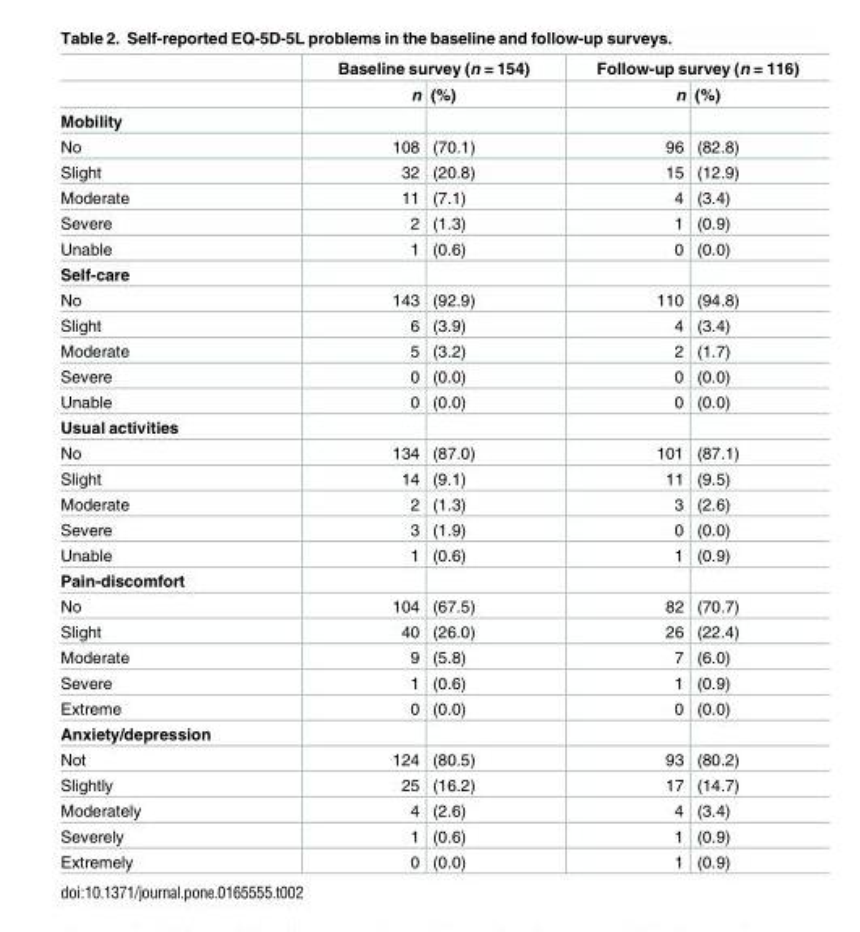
<table><thead><tr><td rowspan="2"></td><td colspan="2">Baseline survey (n = 154)</td><td colspan="2">Follow-up survey (n = 116)</td></tr><tr><td>n</td><td>(%)</td><td>n</td><td>(%)</td></tr></thead><tbody><tr><td colspan="5">Mobility</td></tr><tr><td>No</td><td>108</td><td>(70.1)</td><td>96</td><td>(82.8)</td></tr><tr><td>Slight</td><td>32</td><td>(20.8)</td><td>15</td><td>(12.9)</td></tr><tr><td>Moderate</td><td>11</td><td>(7.1)</td><td>4</td><td>(3.4)</td></tr><tr><td>Severe</td><td>2</td><td>(1.3)</td><td>1</td><td>(0.9)</td></tr><tr><td>Unable</td><td>1</td><td>(0.6)</td><td>0</td><td>(0.0)</td></tr><tr><td colspan="5">Self-care</td></tr><tr><td>No</td><td>143</td><td>(92.9)</td><td>110</td><td>(94.8)</td></tr><tr><td>Slight</td><td>6</td><td>(3.9)</td><td>4</td><td>(3.4)</td></tr><tr><td>Moderate</td><td>5</td><td>(3.2)</td><td>2</td><td>(1.7)</td></tr><tr><td>Severe</td><td>0</td><td>(0.0)</td><td>0</td><td>(0.0)</td></tr><tr><td>Unable</td><td>0</td><td>(0.0)</td><td>0</td><td>(0.0)</td></tr><tr><td colspan="5">Usual activities</td></tr><tr><td>No</td><td>134</td><td>(87.0)</td><td>101</td><td>(87.1)</td></tr><tr><td>Slight</td><td>14</td><td>(9.1)</td><td>11</td><td>(9.5)</td></tr><tr><td>Moderate</td><td>2</td><td>(1.3)</td><td>3</td><td>(2.6)</td></tr><tr><td>Severe</td><td>3</td><td>(1.9)</td><td>0</td><td>(0.0)</td></tr><tr><td>Unable</td><td>1</td><td>(0.6)</td><td>1</td><td>(0.9)</td></tr><tr><td colspan="5">Pain-discomfort</td></tr><tr><td>No</td><td>104</td><td>(67.5)</td><td>82</td><td>(70.7)</td></tr><tr><td>Slight</td><td>40</td><td>(26.0)</td><td>26</td><td>(22.4)</td></tr><tr><td>Moderate</td><td>9</td><td>(5.8)</td><td>7</td><td>(6.0)</td></tr><tr><td>Severe</td><td>1</td><td>(0.6)</td><td>1</td><td>(0.9)</td></tr><tr><td>Extreme</td><td>0</td><td>(0.0)</td><td>0</td><td>(0.0)</td></tr><tr><td colspan="5">Anxiety/depression</td></tr><tr><td>Not</td><td>124</td><td>(80.5)</td><td>93</td><td>(80.2)</td></tr><tr><td>Slightly</td><td>25</td><td>(16.2)</td><td>17</td><td>(14.7)</td></tr><tr><td>Moderately</td><td>4</td><td>(2.6)</td><td>4</td><td>(3.4)</td></tr><tr><td>Severely</td><td>1</td><td>(0.6)</td><td>1</td><td>(0.9)</td></tr><tr><td>Extremely</td><td>0</td><td>(0.0)</td><td>1</td><td>(0.9)</td></tr></tbody></table>